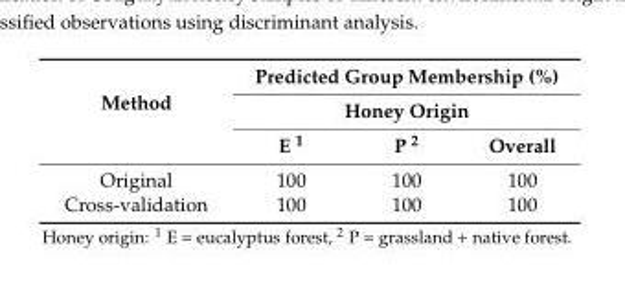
<table><thead><tr><td rowspan="3">Method</td><td rowspan="2" colspan="3">Predicted Group Membership (%) Honey Origin</td></tr><tr></tr><tr><td>E <sup>1</sup></td><td>P <sup>2</sup></td><td>Overall</td></tr></thead><tbody><tr><td>Original</td><td>100</td><td>100</td><td>100</td></tr><tr><td>Cross-validation</td><td>100</td><td>100</td><td>100</td></tr></tbody></table>